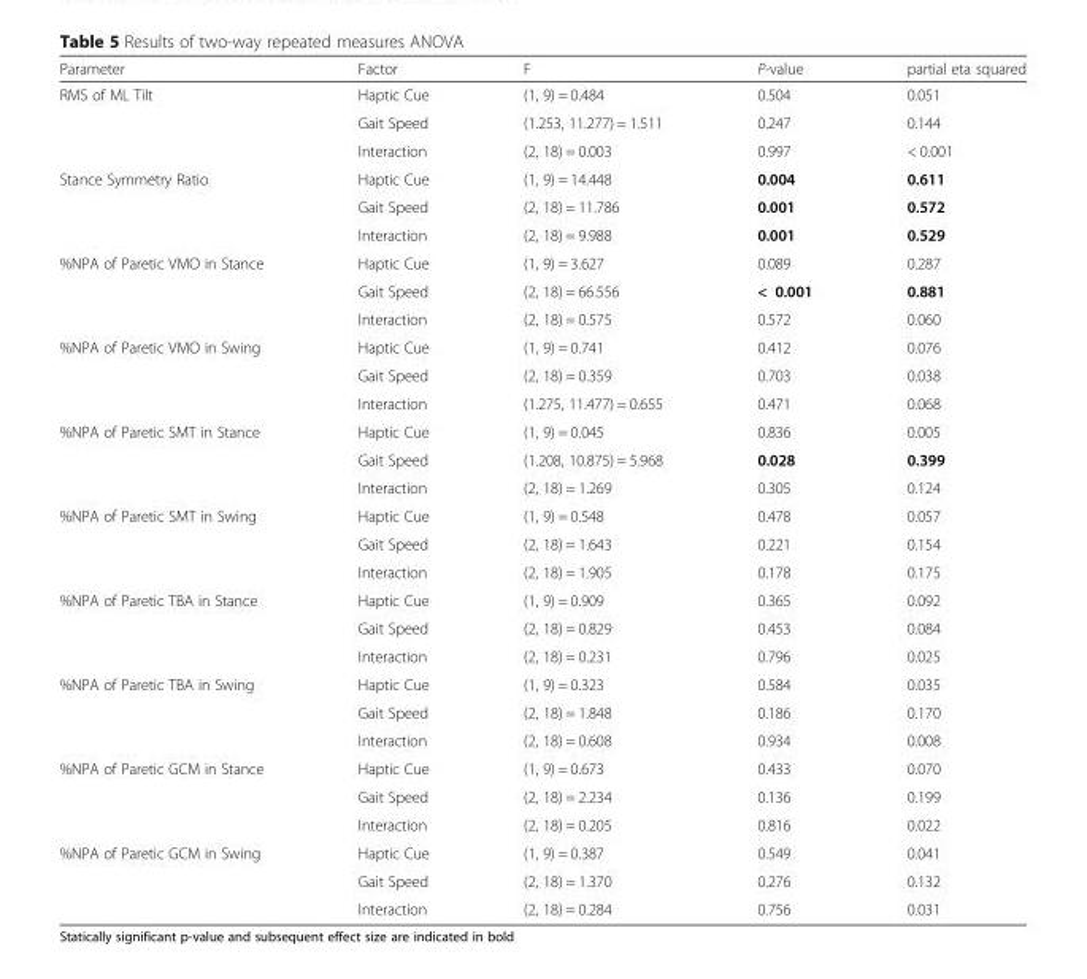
<table><thead><tr><td>Parameter</td><td>Factor</td><td>F</td><td>P-value</td><td>partial eta squared</td></tr></thead><tbody><tr><td rowspan="3">RMS of ML Tilt</td><td>Haptic Cue</td><td>(1, 9) = 0.484</td><td>0.504</td><td>0.051</td></tr><tr><td>Gait Speed</td><td>(1.253, 11.277) = 1.511</td><td>0.247</td><td>0.144</td></tr><tr><td>Interaction</td><td>(2, 18) = 0.003</td><td>0.997</td><td>&lt; 0.001</td></tr><tr><td rowspan="3">Stance Symmetry Ratio</td><td>Haptic Cue</td><td>(1, 9) = 14.448</td><td>0.004</td><td>0.611</td></tr><tr><td>Gait Speed</td><td>(2, 18) = 11.786</td><td>0.001</td><td>0.572</td></tr><tr><td>Interaction</td><td>(2, 18) = 9.988</td><td>0.001</td><td>0.529</td></tr><tr><td rowspan="3">%NPA of Paretic VMO in Stance</td><td>Haptic Cue</td><td>(1, 9) = 3.627</td><td>0.089</td><td>0.287</td></tr><tr><td>Gait Speed</td><td>(2, 18) = 66.556</td><td>&lt; 0.001</td><td>0.881</td></tr><tr><td>Interaction</td><td>(2, 18) = 0.575</td><td>0.572</td><td>0.060</td></tr><tr><td rowspan="3">%NPA of Paretic VMO in Swing</td><td>Haptic Cue</td><td>(1, 9) = 0.741</td><td>0.412</td><td>0.076</td></tr><tr><td>Gait Speed</td><td>(2, 18) = 0.359</td><td>0.703</td><td>0.038</td></tr><tr><td>Interaction</td><td>(1.275, 11.477) = 0.655</td><td>0.471</td><td>0.068</td></tr><tr><td rowspan="3">%NPA of Paretic SMT in Stance</td><td>Haptic Cue</td><td>(1, 9) = 0.045</td><td>0.836</td><td>0.005</td></tr><tr><td>Gait Speed</td><td>(1.208, 10.875) = 5.968</td><td>0.028</td><td>0.399</td></tr><tr><td>Interaction</td><td>(2, 18) = 1.269</td><td>0.305</td><td>0.124</td></tr><tr><td rowspan="3">%NPA of Paretic SMT in Swing</td><td>Haptic Cue</td><td>(1, 9) = 0.548</td><td>0.478</td><td>0.057</td></tr><tr><td>Gait Speed</td><td>(2, 18) = 1.643</td><td>0.221</td><td>0.154</td></tr><tr><td>Interaction</td><td>(2, 18) = 1.905</td><td>0.178</td><td>0.175</td></tr><tr><td rowspan="3">%NPA of Paretic TBA in Stance</td><td>Haptic Cue</td><td>(1, 9) = 0.909</td><td>0.365</td><td>0.092</td></tr><tr><td>Gait Speed</td><td>(2, 18) = 0.829</td><td>0.453</td><td>0.084</td></tr><tr><td>Interaction</td><td>(2, 18) = 0.231</td><td>0.796</td><td>0.025</td></tr><tr><td rowspan="3">%NPA of Paretic TBA in Swing</td><td>Haptic Cue</td><td>(1, 9) = 0.323</td><td>0.584</td><td>0.035</td></tr><tr><td>Gait Speed</td><td>(2, 18) = 1.848</td><td>0.186</td><td>0.170</td></tr><tr><td>Interaction</td><td>(2, 18) = 0.608</td><td>0.934</td><td>0.008</td></tr><tr><td rowspan="3">%NPA of Paretic GCM in Stance</td><td>Haptic Cue</td><td>(1, 9) = 0.673</td><td>0.433</td><td>0.070</td></tr><tr><td>Gait Speed</td><td>(2, 18) = 2.234</td><td>0.136</td><td>0.199</td></tr><tr><td>Interaction</td><td>(2, 18) = 0.205</td><td>0.816</td><td>0.022</td></tr><tr><td rowspan="3">%NPA of Paretic GCM in Swing</td><td>Haptic Cue</td><td>(1, 9) = 0.387</td><td>0.549</td><td>0.041</td></tr><tr><td>Gait Speed</td><td>(2, 18) = 1.370</td><td>0.276</td><td>0.132</td></tr><tr><td>Interaction</td><td>(2, 18) = 0.284</td><td>0.756</td><td>0.031</td></tr></tbody></table>